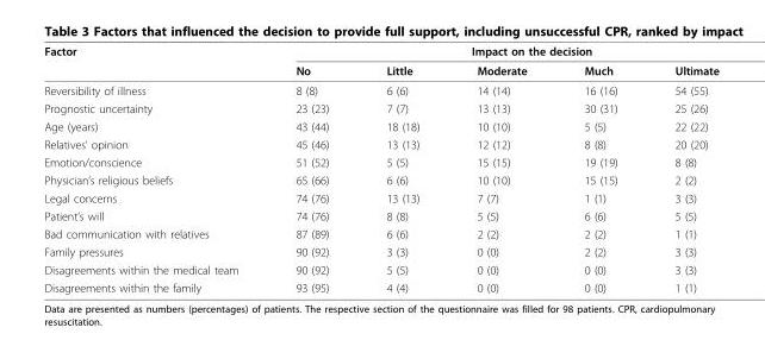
<table><thead><tr><td rowspan="2">Factor</td><td colspan="5">Impact on the decision</td></tr><tr><td>No</td><td>Little</td><td>Moderate</td><td>Much</td><td>Ultimate</td></tr></thead><tbody><tr><td>Reversibility of illness</td><td>8 (8)</td><td>6 (6)</td><td>14 (14)</td><td>16 (16)</td><td>54 (55)</td></tr><tr><td>Prognostic uncertainty</td><td>23 (23)</td><td>7 (7)</td><td>13 (13)</td><td>30 (31)</td><td>25 (26)</td></tr><tr><td>Age (years)</td><td>43 (44)</td><td>18 (18)</td><td>10 (10)</td><td>5 (5)</td><td>22 (22)</td></tr><tr><td>Relatives’ opinion</td><td>45 (46)</td><td>13 (13)</td><td>12 (12)</td><td>8 (8)</td><td>20 (20)</td></tr><tr><td>Emotion/conscience</td><td>51 (52)</td><td>5 (5)</td><td>15 (15)</td><td>19 (19)</td><td>8 (8)</td></tr><tr><td>Physician’s religious beliefs</td><td>65 (66)</td><td>6 (6)</td><td>10 (10)</td><td>15 (15)</td><td>2 (2)</td></tr><tr><td>Legal concerns</td><td>74 (76)</td><td>13 (13)</td><td>7 (7)</td><td>1 (1)</td><td>3 (3)</td></tr><tr><td>Patient’s will</td><td>74 (76)</td><td>8 (8)</td><td>5 (5)</td><td>6 (6)</td><td>5 (5)</td></tr><tr><td>Bad communication with relatives</td><td>87 (89)</td><td>6 (6)</td><td>2 (2)</td><td>2 (2)</td><td>1 (1)</td></tr><tr><td>Family pressures</td><td>90 (92)</td><td>3 (3)</td><td>0 (0)</td><td>2 (2)</td><td>3 (3)</td></tr><tr><td>Disagreements within the medical team</td><td>90 (92)</td><td>5 (5)</td><td>0 (0)</td><td>0 (0)</td><td>3 (3)</td></tr><tr><td>Disagreements within the family</td><td>93 (95)</td><td>4 (4)</td><td>0 (0)</td><td>0 (0)</td><td>1 (1)</td></tr></tbody></table>